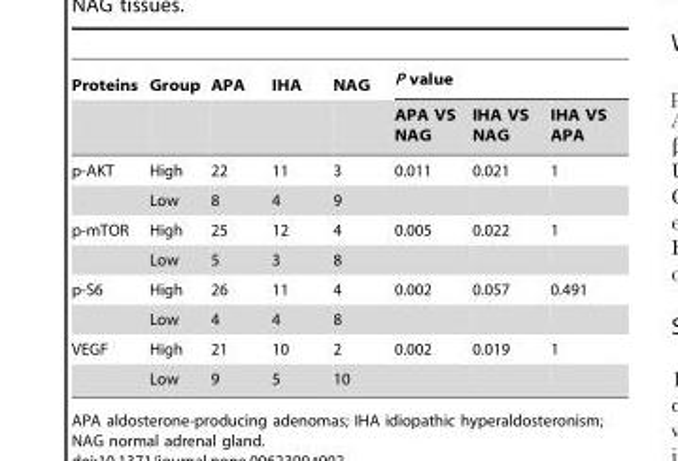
<table><thead><tr><td rowspan="2">Proteins</td><td rowspan="2">Group</td><td rowspan="2">APA</td><td rowspan="2">IHA</td><td rowspan="2">NAG</td><td colspan="3">P value</td></tr><tr><td>APA VS NAG</td><td>IHA VS NAG</td><td>IHA VS APA</td></tr></thead><tbody><tr><td rowspan="2">p-AKT</td><td>High</td><td>22</td><td>11</td><td>3</td><td>0.011</td><td>0.021</td><td>1</td></tr><tr><td>Low</td><td>8</td><td>4</td><td>9</td><td></td><td></td><td></td></tr><tr><td rowspan="2">p-mTOR</td><td>High</td><td>25</td><td>12</td><td>4</td><td>0.005</td><td>0.022</td><td>1</td></tr><tr><td>Low</td><td>5</td><td>3</td><td>8</td><td></td><td></td><td></td></tr><tr><td rowspan="2">p-S6</td><td>High</td><td>26</td><td>11</td><td>4</td><td>0.002</td><td>0.057</td><td>0.491</td></tr><tr><td>Low</td><td>4</td><td>4</td><td>8</td><td></td><td></td><td></td></tr><tr><td rowspan="2">VEGF</td><td>High</td><td>21</td><td>10</td><td>2</td><td>0.002</td><td>0.019</td><td>1</td></tr><tr><td>Low</td><td>9</td><td>5</td><td>10</td><td></td><td></td><td></td></tr></tbody></table>